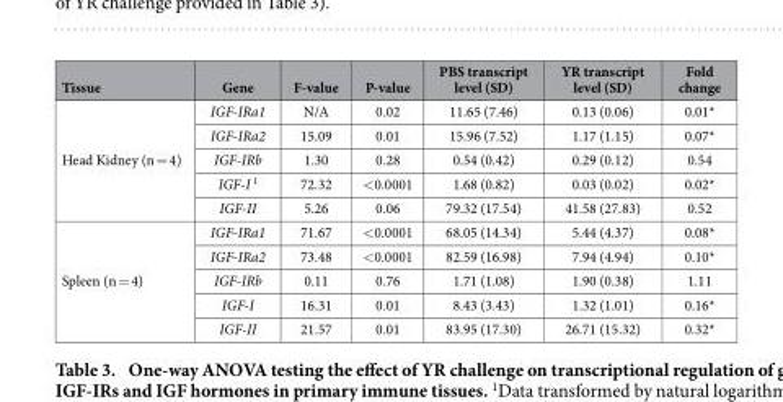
<table><thead><tr><td>Tissue</td><td>Gene</td><td>F-value</td><td>P-value</td><td>PBS transcript level (SD)</td><td>YR transcript level (SD)</td><td>Fold change</td></tr></thead><tbody><tr><td rowspan="5">Head Kidney (n = 4)</td><td>IGF-IRa1</td><td>N/A</td><td>0.02</td><td>11.65 (7.46)</td><td>0.13 (0.06)</td><td>0.01*</td></tr><tr><td>IGF-IRa2</td><td>15.09</td><td>0.01</td><td>15.96 (7.52)</td><td>1.17 (1.15)</td><td>0.07*</td></tr><tr><td>IGF-IRb</td><td>1.30</td><td>0.28</td><td>0.54 (0.42)</td><td>0.29 (0.12)</td><td>0.54</td></tr><tr><td>IGF-I <sup>1</sup></td><td>72.32</td><td>&lt; 0.0001</td><td>1.68 (0.82)</td><td>0.03 (0.02)</td><td>0.02*</td></tr><tr><td>IGF-II</td><td>5.26</td><td>0.06</td><td>79.32 (17.54)</td><td>41.58 (27.83)</td><td>0.52</td></tr><tr><td rowspan="5">Spleen (n = 4)</td><td>IGF-IRa1</td><td>71.67</td><td>&lt; 0.0001</td><td>68.05 (14.34)</td><td>5.44 (4.37)</td><td>0.08*</td></tr><tr><td>IGF-IRa2</td><td>73.48</td><td>&lt; 0.0001</td><td>82.59 (16.98)</td><td>7.94 (4.94)</td><td>0.10*</td></tr><tr><td>IGF-IRb</td><td>0.11</td><td>0.76</td><td>1.71 (1.08)</td><td>1.90 (0.38)</td><td>1.11</td></tr><tr><td>IGF-I</td><td>16.31</td><td>0.01</td><td>8.43 (3.43)</td><td>1.32 (1.01)</td><td>0.16*</td></tr><tr><td>IGF-II</td><td>21.57</td><td>0.01</td><td>83.95 (17.30)</td><td>26.71 (15.32)</td><td>0.32*</td></tr></tbody></table>